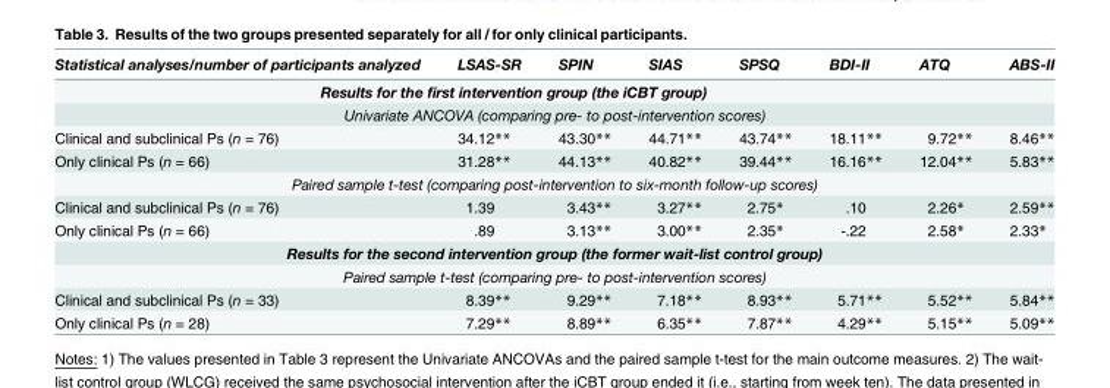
<table><thead><tr><td>Statistical analyses/number of participants analyzed</td><td>LSAS-SR</td><td>SPIN</td><td>SIAS</td><td>SPSQ</td><td>BDI-II</td><td>ATQ</td><td>ABS-II</td></tr></thead><tbody><tr><td colspan="8">Results for the first intervention group (the iCBT group)</td></tr><tr><td colspan="8">Univariate ANCOVA (comparing pre- to post-intervention scores)</td></tr><tr><td>Clinical and subclinical Ps (n = 76)</td><td>34.12**</td><td>43.30**</td><td>44.71**</td><td>43.74**</td><td>18.11**</td><td>9.72**</td><td>8.46**</td></tr><tr><td>Only clinical Ps (n = 66)</td><td>31.28**</td><td>44.13**</td><td>40.82**</td><td>39.44**</td><td>16.16**</td><td>12.04**</td><td>5.83**</td></tr><tr><td colspan="8">Paired sample t-test (comparing post-intervention to six-month follow-up scores)</td></tr><tr><td>Clinical and subclinical Ps (n = 76)</td><td>1.39</td><td>3.43**</td><td>3.27**</td><td>2.75*</td><td>.10</td><td>2.26*</td><td>2.59**</td></tr><tr><td>Only clinical Ps (n = 66)</td><td>.89</td><td>3.13**</td><td>3.00**</td><td>2.35*</td><td>-.22</td><td>2.58*</td><td>2.33*</td></tr><tr><td colspan="8">Results for the second intervention group (the former wait-list control group)</td></tr><tr><td colspan="8">Paired sample t-test (comparing pre- to post-intervention scores)</td></tr><tr><td>Clinical and subclinical Ps (n = 33)</td><td>8.39**</td><td>9.29**</td><td>7.18**</td><td>8.93**</td><td>5.71**</td><td>5.52**</td><td>5.84**</td></tr><tr><td>Only clinical Ps (n = 28)</td><td>7.29**</td><td>8.89**</td><td>6.35**</td><td>7.87**</td><td>4.29**</td><td>5.15**</td><td>5.09**</td></tr></tbody></table>